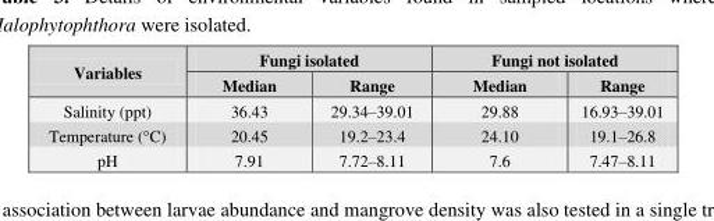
<table><thead><tr><td rowspan="2">Variables</td><td colspan="2">Fungi isolated</td><td colspan="2">Fungi not isolated</td></tr><tr><td>Median</td><td>Range</td><td>Median</td><td>Range</td></tr></thead><tbody><tr><td>Salinity (ppt)</td><td>36.43</td><td>29.34–39.01</td><td>29.88</td><td>16.93–39.01</td></tr><tr><td>Temperature (°C)</td><td>20.45</td><td>19.2–23.4</td><td>24.10</td><td>19.1–26.8</td></tr><tr><td>pH</td><td>7.91</td><td>7.72–8.11</td><td>7.6</td><td>7.47–8.11</td></tr></tbody></table>